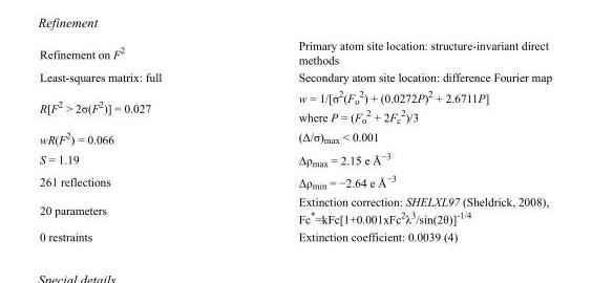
<table><tbody><tr><td>Refinement on F<sup>2</sup></td><td>Primary atom site location: structure-invariant direct methods</td></tr><tr><td>Least-squares matrix: full</td><td>Secondary atom site location: difference Fourier map</td></tr><tr><td>R[F<sup>2</sup> &gt; 2σ(F<sup>2</sup>)] = 0.027</td><td>w = 1/[σ<sup>2</sup>(F<sub>o</sub> <sup>2</sup>) + (0.0272P)<sup>2</sup> + 2.6711P] where P = (F<sub>o</sub> <sup>2</sup> + 2F<sub>c</sub> <sup>2</sup>)/3</td></tr><tr><td>wR(F<sup>2</sup>) = 0.066</td><td>(Δ/σ)<sub>max</sub> &lt; 0.001</td></tr><tr><td>S = 1.19</td><td>Δρ<sub>max</sub> = 2.15 e Å<sup>−3</sup></td></tr><tr><td>261 reflections</td><td>Δρ<sub>min</sub> = −2.64 e Å<sup>−3</sup></td></tr><tr><td>20 parameters</td><td>Extinction correction: SHELXL97 (Sheldrick, 2008), Fc*=kFc[1+0.001xFc<sup>2</sup>λ<sup>3</sup>/sin(2θ)]<sup>-1/4</sup></td></tr><tr><td>0 restraints</td><td>Extinction coefficient: 0.0039 (4)</td></tr></tbody></table>